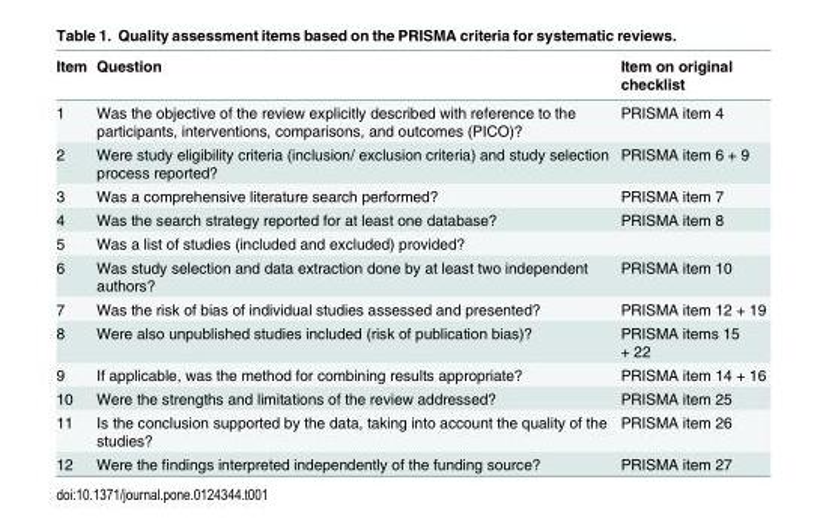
<table><thead><tr><td>Item</td><td>Question</td><td>Item on original checklist</td></tr></thead><tbody><tr><td>1</td><td>Was the objective of the review explicitly described with reference to the participants, interventions, comparisons, and outcomes (PICO)?</td><td>PRISMA item 4</td></tr><tr><td>2</td><td>Were study eligibility criteria (inclusion/ exclusion criteria) and study selection process reported?</td><td>PRISMA item 6 + 9</td></tr><tr><td>3</td><td>Was a comprehensive literature search performed?</td><td>PRISMA item 7</td></tr><tr><td>4</td><td>Was the search strategy reported for at least one database?</td><td>PRISMA item 8</td></tr><tr><td>5</td><td>Was a list of studies (included and excluded) provided?</td><td></td></tr><tr><td>6</td><td>Was study selection and data extraction done by at least two independent authors?</td><td>PRISMA item 10</td></tr><tr><td>7</td><td>Was the risk of bias of individual studies assessed and presented?</td><td>PRISMA item 12 + 19</td></tr><tr><td>8</td><td>Were also unpublished studies included (risk of publication bias)?</td><td>PRISMA items 15 + 22</td></tr><tr><td>9</td><td>If applicable, was the method for combining results appropriate?</td><td>PRISMA item 14 + 16</td></tr><tr><td>10</td><td>Were the strengths and limitations of the review addressed?</td><td>PRISMA item 25</td></tr><tr><td>11</td><td>Is the conclusion supported by the data, taking into account the quality of the studies?</td><td>PRISMA item 26</td></tr><tr><td>12</td><td>Were the findings interpreted independently of the funding source?</td><td>PRISMA item 27</td></tr></tbody></table>